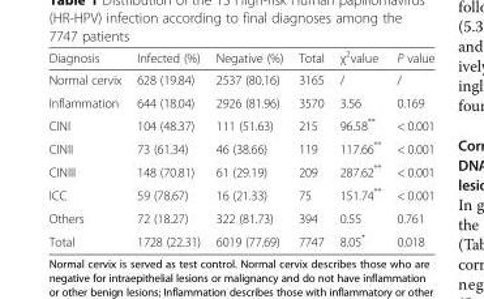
<table><thead><tr><td>Diagnosis</td><td>Infected (%)</td><td>Negative (%)</td><td>Total</td><td>χ<sup>2</sup>value</td><td>P value</td></tr></thead><tbody><tr><td>Normal cervix</td><td>628 (19.84)</td><td>2537 (80.16)</td><td>3165</td><td>/</td><td>/</td></tr><tr><td>Inflammation</td><td>644 (18.04)</td><td>2926 (81.96)</td><td>3570</td><td>3.56</td><td>0.169</td></tr><tr><td>CINI</td><td>104 (48.37)</td><td>111 (51.63)</td><td>215</td><td>96.58**</td><td>&lt; 0.001</td></tr><tr><td>CINII</td><td>73 (61.34)</td><td>46 (38.66)</td><td>119</td><td>117.66**</td><td>&lt; 0.001</td></tr><tr><td>CINIII</td><td>148 (70.81)</td><td>61 (29.19)</td><td>209</td><td>287.62**</td><td>&lt; 0.001</td></tr><tr><td>ICC</td><td>59 (78.67)</td><td>16 (21.33)</td><td>75</td><td>151.74**</td><td>&lt; 0.001</td></tr><tr><td>Others</td><td>72 (18.27)</td><td>322 (81.73)</td><td>394</td><td>0.55</td><td>0.761</td></tr><tr><td>Total</td><td>1728 (22.31)</td><td>6019 (77.69)</td><td>7747</td><td>8.05*</td><td>0.018</td></tr></tbody></table>